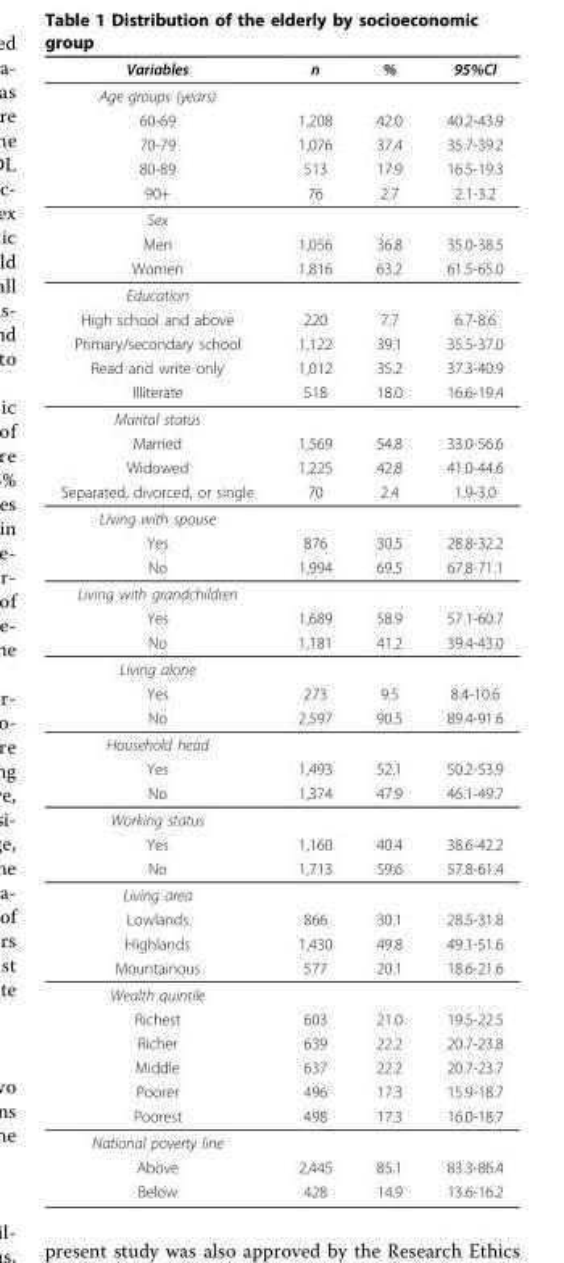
<table><thead><tr><td>Variables</td><td>n</td><td>%</td><td>95%CI</td></tr></thead><tbody><tr><td colspan="4">Age groups (years)</td></tr><tr><td>60-69</td><td>1,208</td><td>42.0</td><td>40.2-43.9</td></tr><tr><td>70-79</td><td>1,076</td><td>37.4</td><td>35.7-39.2</td></tr><tr><td>80-89</td><td>513</td><td>17.9</td><td>16.5-19.3</td></tr><tr><td>90+</td><td>76</td><td>2.7</td><td>2.1-3.2</td></tr><tr><td colspan="4">Sex</td></tr><tr><td>Men</td><td>1,056</td><td>36.8</td><td>35.0-38.5</td></tr><tr><td>Women</td><td>1,816</td><td>63.2</td><td>61.5-65.0</td></tr><tr><td colspan="4">Education</td></tr><tr><td>High school and above</td><td>220</td><td>7.7</td><td>6.7-8.6</td></tr><tr><td>Primary/secondary school</td><td>1,122</td><td>39.1</td><td>35.5-37.0</td></tr><tr><td>Read and write only</td><td>1,012</td><td>35.2</td><td>37.3-40.9</td></tr><tr><td>Illiterate</td><td>518</td><td>18.0</td><td>16.6-19.4</td></tr><tr><td colspan="4">Marital status</td></tr><tr><td>Married</td><td>1,569</td><td>54.8</td><td>33.0-56.6</td></tr><tr><td>Widowed</td><td>1,225</td><td>42.8</td><td>41.0-44.6</td></tr><tr><td>Separated, divorced, or single</td><td>70</td><td>2.4</td><td>1.9-3.0</td></tr><tr><td colspan="4">Living with spouse</td></tr><tr><td>Yes</td><td>876</td><td>30.5</td><td>28.8-32.2</td></tr><tr><td>No</td><td>1,994</td><td>69.5</td><td>67.8-71.1</td></tr><tr><td colspan="4">Living with grandchildren</td></tr><tr><td>Yes</td><td>1,689</td><td>58.9</td><td>57.1-60.7</td></tr><tr><td>No</td><td>1,181</td><td>41.2</td><td>39.4-43.0</td></tr><tr><td colspan="4">Living alone</td></tr><tr><td>Yes</td><td>273</td><td>9.5</td><td>8.4-10.6</td></tr><tr><td>No</td><td>2,597</td><td>90.5</td><td>89.4-91.6</td></tr><tr><td colspan="4">Household head</td></tr><tr><td>Yes</td><td>1,493</td><td>52.1</td><td>50.2-53.9</td></tr><tr><td>No</td><td>1,374</td><td>47.9</td><td>46.1-49.7</td></tr><tr><td colspan="4">Working status</td></tr><tr><td>Yes</td><td>1,160</td><td>40.4</td><td>38.6-42.2</td></tr><tr><td>No</td><td>1,713</td><td>59.6</td><td>57.8-61.4</td></tr><tr><td colspan="4">Living area</td></tr><tr><td>Lowlands</td><td>866</td><td>30.1</td><td>28.5-31.8</td></tr><tr><td>Highlands</td><td>1,430</td><td>49.8</td><td>49.1-51.6</td></tr><tr><td>Mountainous</td><td>577</td><td>20.1</td><td>18.6-21.6</td></tr><tr><td colspan="4">Wealth quintile</td></tr><tr><td>Richest</td><td>603</td><td>21.0</td><td>19.5-22.5</td></tr><tr><td>Richer</td><td>639</td><td>22.2</td><td>20.7-23.8</td></tr><tr><td>Middle</td><td>637</td><td>22.2</td><td>20.7-23.7</td></tr><tr><td>Poorer</td><td>496</td><td>17.3</td><td>15.9-18.7</td></tr><tr><td>Poorest</td><td>498</td><td>17.3</td><td>16.0-18.7</td></tr><tr><td colspan="4">National poverty line</td></tr><tr><td>Above</td><td>2,445</td><td>85.1</td><td>83.3-86.4</td></tr><tr><td>Below</td><td>428</td><td>14.9</td><td>13.6-16.2</td></tr></tbody></table>